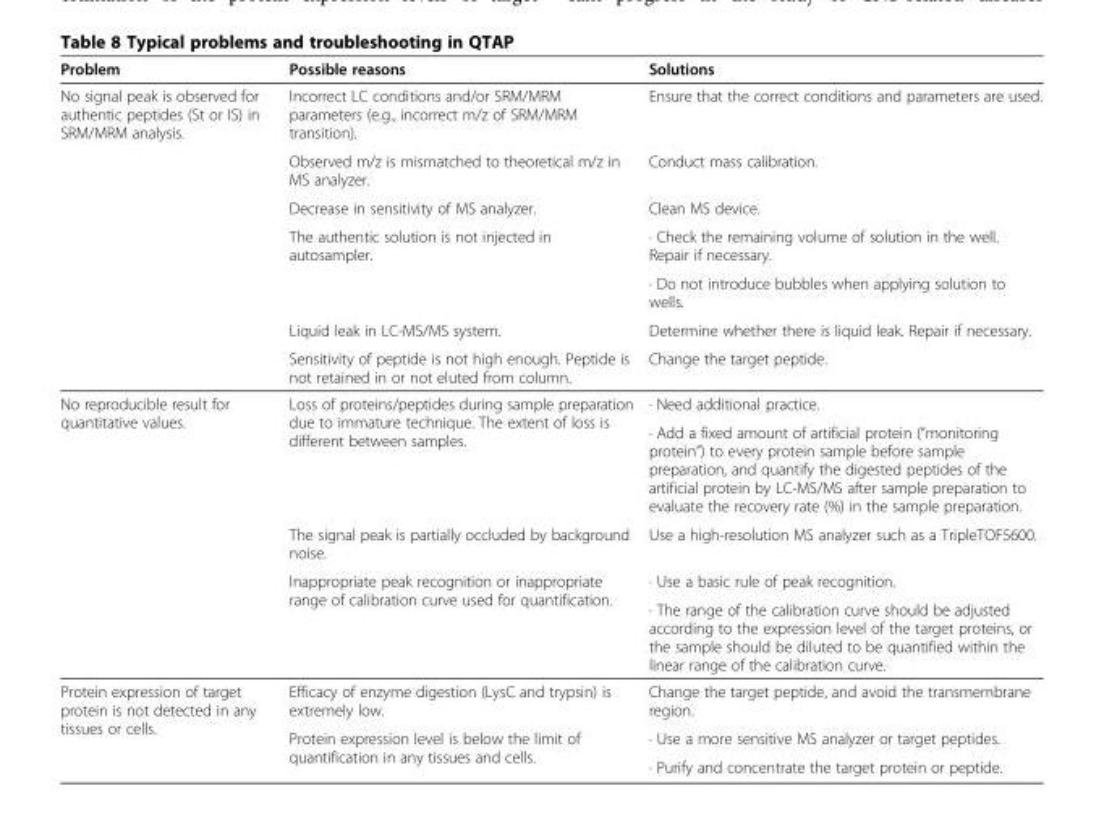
<table><thead><tr><td>Problem</td><td>Possible reasons</td><td>Solutions</td></tr></thead><tbody><tr><td rowspan="7">No signal peak is observed for authentic peptides (St or IS) in SRM/MRM analysis.</td><td>Incorrect LC conditions and/or SRM/MRM parameters (e.g., incorrect m/z of SRM/MRM transition).</td><td>Ensure that the correct conditions and parameters are used.</td></tr><tr><td>Observed m/z is mismatched to theoretical m/z in MS analyzer.</td><td>Conduct mass calibration.</td></tr><tr><td>Decrease in sensitivity of MS analyzer.</td><td>Clean MS device.</td></tr><tr><td rowspan="2">The authentic solution is not injected in autosampler.</td><td>· Check the remaining volume of solution in the well. Repair if necessary.</td></tr><tr><td>· Do not introduce bubbles when applying solution to wells.</td></tr><tr><td>Liquid leak in LC-MS/MS system.</td><td>Determine whether there is liquid leak. Repair if necessary.</td></tr><tr><td>Sensitivity of peptide is not high enough. Peptide is not retained in or not eluted from column.</td><td>Change the target peptide.</td></tr><tr><td rowspan="5">No reproducible result for quantitative values.</td><td rowspan="2">Loss of proteins/peptides during sample preparation due to immature technique. The extent of loss is different between samples.</td><td>· Need additional practice.</td></tr><tr><td>· Add a fixed amount of artificial protein (“monitoring protein”) to every protein sample before sample preparation, and quantify the digested peptides of the artificial protein by LC-MS/MS after sample preparation to evaluate the recovery rate (%) in the sample preparation.</td></tr><tr><td>The signal peak is partially occluded by background noise.</td><td>Use a high-resolution MS analyzer such as a TripleTOF5600.</td></tr><tr><td rowspan="2">Inappropriate peak recognition or inappropriate range of calibration curve used for quantification.</td><td>· Use a basic rule of peak recognition.</td></tr><tr><td>· The range of the calibration curve should be adjusted according to the expression level of the target proteins, or the sample should be diluted to be quantified within the linear range of the calibration curve.</td></tr><tr><td rowspan="3">Protein expression of target protein is not detected in any tissues or cells.</td><td>Efficacy of enzyme digestion (LysC and trypsin) is extremely low.</td><td>Change the target peptide, and avoid the transmembrane region.</td></tr><tr><td rowspan="2">Protein expression level is below the limit of quantification in any tissues and cells.</td><td>· Use a more sensitive MS analyzer or target peptides.</td></tr><tr><td>· Purify and concentrate the target protein or peptide.</td></tr></tbody></table>